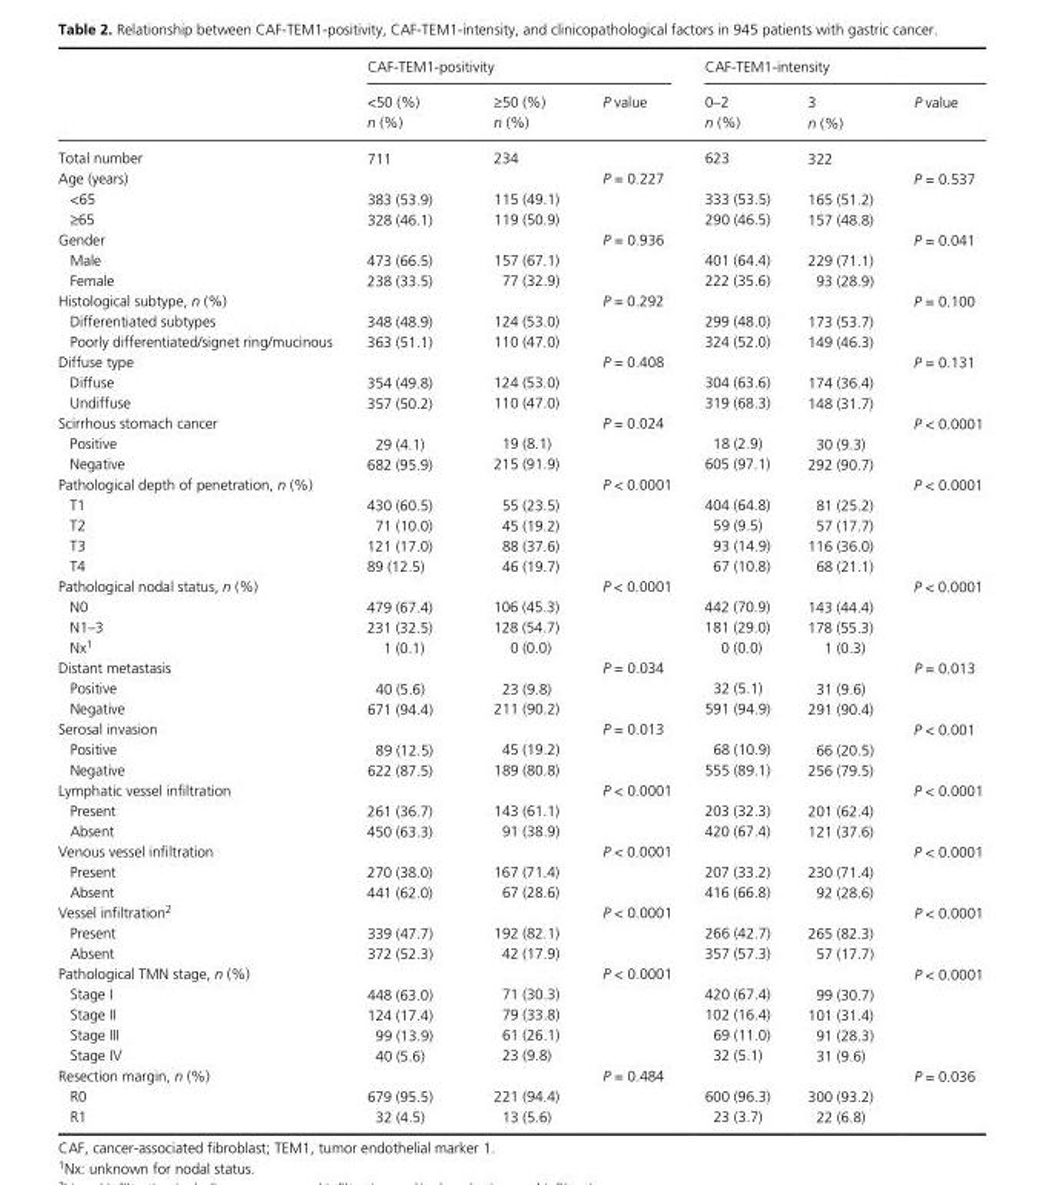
<table><thead><tr><td rowspan="2"></td><td colspan="3">CAF- TEM1- positivity</td><td colspan="3">CAF- TEM1- intensity</td></tr><tr><td>&lt;50 (%) n (%)</td><td>≥50 (%) n (%)</td><td>P value</td><td>0–2 n (%)</td><td>3 n (%)</td><td>P value</td></tr></thead><tbody><tr><td>Total number</td><td>711</td><td>234</td><td></td><td>623</td><td>322</td><td></td></tr><tr><td>Age (years)</td><td></td><td></td><td>P = 0.227</td><td></td><td></td><td>P = 0.537</td></tr><tr><td>&lt;65</td><td>383 (53.9)</td><td>115 (49.1)</td><td></td><td>333 (53.5)</td><td>165 (51.2)</td><td></td></tr><tr><td>≥65</td><td>328 (46.1)</td><td>119 (50.9)</td><td></td><td>290 (46.5)</td><td>157 (48.8)</td><td></td></tr><tr><td>Gender</td><td></td><td></td><td>P = 0.936</td><td></td><td></td><td>P = 0.041</td></tr><tr><td>Male</td><td>473 (66.5)</td><td>157 (67.1)</td><td></td><td>401 (64.4)</td><td>229 (71.1)</td><td></td></tr><tr><td>Female</td><td>238 (33.5)</td><td>77 (32.9)</td><td></td><td>222 (35.6)</td><td>93 (28.9)</td><td></td></tr><tr><td>Histological subtype, n (%)</td><td></td><td></td><td>P = 0.292</td><td></td><td></td><td>P = 0.100</td></tr><tr><td>Differentiated subtypes</td><td>348 (48.9)</td><td>124 (53.0)</td><td></td><td>299 (48.0)</td><td>173 (53.7)</td><td></td></tr><tr><td>Poorly differentiated/signet ring/mucinous</td><td>363 (51.1)</td><td>110 (47.0)</td><td></td><td>324 (52.0)</td><td>149 (46.3)</td><td></td></tr><tr><td>Diffuse type</td><td></td><td></td><td>P = 0.408</td><td></td><td></td><td>P = 0.131</td></tr><tr><td>Diffuse</td><td>354 (49.8)</td><td>124 (53.0)</td><td></td><td>304 (63.6)</td><td>174 (36.4)</td><td></td></tr><tr><td>Undiffuse</td><td>357 (50.2)</td><td>110 (47.0)</td><td></td><td>319 (68.3)</td><td>148 (31.7)</td><td></td></tr><tr><td>Scirrhous stomach cancer</td><td></td><td></td><td>P = 0.024</td><td></td><td></td><td>P &lt; 0.0001</td></tr><tr><td>Positive</td><td>29 (4.1)</td><td>19 (8.1)</td><td></td><td>18 (2.9)</td><td>30 (9.3)</td><td></td></tr><tr><td>Negative</td><td>682 (95.9)</td><td>215 (91.9)</td><td></td><td>605 (97.1)</td><td>292 (90.7)</td><td></td></tr><tr><td>Pathological depth of penetration, n (%)</td><td></td><td></td><td>P &lt; 0.0001</td><td></td><td></td><td>P &lt; 0.0001</td></tr><tr><td>T1</td><td>430 (60.5)</td><td>55 (23.5)</td><td></td><td>404 (64.8)</td><td>81 (25.2)</td><td></td></tr><tr><td>T2</td><td>71 (10.0)</td><td>45 (19.2)</td><td></td><td>59 (9.5)</td><td>57 (17.7)</td><td></td></tr><tr><td>T3</td><td>121 (17.0)</td><td>88 (37.6)</td><td></td><td>93 (14.9)</td><td>116 (36.0)</td><td></td></tr><tr><td>T4</td><td>89 (12.5)</td><td>46 (19.7)</td><td></td><td>67 (10.8)</td><td>68 (21.1)</td><td></td></tr><tr><td>Pathological nodal status, n (%)</td><td></td><td></td><td>P &lt; 0.0001</td><td></td><td></td><td>P &lt; 0.0001</td></tr><tr><td>N0</td><td>479 (67.4)</td><td>106 (45.3)</td><td></td><td>442 (70.9)</td><td>143 (44.4)</td><td></td></tr><tr><td>N1–3</td><td>231 (32.5)</td><td>128 (54.7)</td><td></td><td>181 (29.0)</td><td>178 (55.3)</td><td></td></tr><tr><td>Nx<sup>1</sup></td><td>1 (0.1)</td><td>0 (0.0)</td><td></td><td>0 (0.0)</td><td>1 (0.3)</td><td></td></tr><tr><td>Distant metastasis</td><td></td><td></td><td>P = 0.034</td><td></td><td></td><td>P = 0.013</td></tr><tr><td>Positive</td><td>40 (5.6)</td><td>23 (9.8)</td><td></td><td>32 (5.1)</td><td>31 (9.6)</td><td></td></tr><tr><td>Negative</td><td>671 (94.4)</td><td>211 (90.2)</td><td></td><td>591 (94.9)</td><td>291 (90.4)</td><td></td></tr><tr><td>Serosal invasion</td><td></td><td></td><td>P = 0.013</td><td></td><td></td><td>P &lt; 0.001</td></tr><tr><td>Positive</td><td>89 (12.5)</td><td>45 (19.2)</td><td></td><td>68 (10.9)</td><td>66 (20.5)</td><td></td></tr><tr><td>Negative</td><td>622 (87.5)</td><td>189 (80.8)</td><td></td><td>555 (89.1)</td><td>256 (79.5)</td><td></td></tr><tr><td>Lymphatic vessel infiltration</td><td></td><td></td><td>P &lt; 0.0001</td><td></td><td></td><td>P &lt; 0.0001</td></tr><tr><td>Present</td><td>261 (36.7)</td><td>143 (61.1)</td><td></td><td>203 (32.3)</td><td>201 (62.4)</td><td></td></tr><tr><td>Absent</td><td>450 (63.3)</td><td>91 (38.9)</td><td></td><td>420 (67.4)</td><td>121 (37.6)</td><td></td></tr><tr><td>Venous vessel infiltration</td><td></td><td></td><td>P &lt; 0.0001</td><td></td><td></td><td>P &lt; 0.0001</td></tr><tr><td>Present</td><td>270 (38.0)</td><td>167 (71.4)</td><td></td><td>207 (33.2)</td><td>230 (71.4)</td><td></td></tr><tr><td>Absent</td><td>441 (62.0)</td><td>67 (28.6)</td><td></td><td>416 (66.8)</td><td>92 (28.6)</td><td></td></tr><tr><td>Vessel infiltration<sup>2</sup></td><td></td><td></td><td>P &lt; 0.0001</td><td></td><td></td><td>P &lt; 0.0001</td></tr><tr><td>Present</td><td>339 (47.7)</td><td>192 (82.1)</td><td></td><td>266 (42.7)</td><td>265 (82.3)</td><td></td></tr><tr><td>Absent</td><td>372 (52.3)</td><td>42 (17.9)</td><td></td><td>357 (57.3)</td><td>57 (17.7)</td><td></td></tr><tr><td>Pathological TMN stage, n (%)</td><td></td><td></td><td>P &lt; 0.0001</td><td></td><td></td><td>P &lt; 0.0001</td></tr><tr><td>Stage I</td><td>448 (63.0)</td><td>71 (30.3)</td><td></td><td>420 (67.4)</td><td>99 (30.7)</td><td></td></tr><tr><td>Stage II</td><td>124 (17.4)</td><td>79 (33.8)</td><td></td><td>102 (16.4)</td><td>101 (31.4)</td><td></td></tr><tr><td>Stage III</td><td>99 (13.9)</td><td>61 (26.1)</td><td></td><td>69 (11.0)</td><td>91 (28.3)</td><td></td></tr><tr><td>Stage IV</td><td>40 (5.6)</td><td>23 (9.8)</td><td></td><td>32 (5.1)</td><td>31 (9.6)</td><td></td></tr><tr><td>Resection margin, n (%)</td><td></td><td></td><td>P = 0.484</td><td></td><td></td><td>P = 0.036</td></tr><tr><td>R0</td><td>679 (95.5)</td><td>221 (94.4)</td><td></td><td>600 (96.3)</td><td>300 (93.2)</td><td></td></tr><tr><td>R1</td><td>32 (4.5)</td><td>13 (5.6)</td><td></td><td>23 (3.7)</td><td>22 (6.8)</td><td></td></tr></tbody></table>